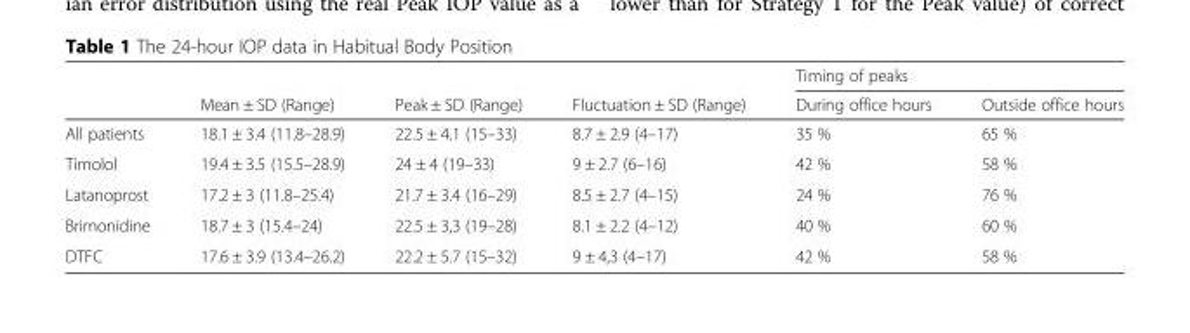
<table><thead><tr><td rowspan="2"></td><td rowspan="2">Mean ± SD (Range)</td><td rowspan="2">Peak ± SD (Range)</td><td rowspan="2">Fluctuation ± SD (Range)</td><td colspan="2">Timing of peaks</td></tr><tr><td>During office hours</td><td>Outside office hours</td></tr></thead><tbody><tr><td>All patients</td><td>18.1 ± 3.4 (11.8–28.9)</td><td>22.5 ± 4.1 (15–33)</td><td>8.7 ± 2.9 (4–17)</td><td>35 %</td><td>65 %</td></tr><tr><td>Timolol</td><td>19.4 ± 3.5 (15.5–28.9)</td><td>24 ± 4 (19–33)</td><td>9 ± 2.7 (6–16)</td><td>42 %</td><td>58 %</td></tr><tr><td>Latanoprost</td><td>17.2 ± 3 (11.8–25.4)</td><td>21.7 ± 3.4 (16–29)</td><td>8.5 ± 2.7 (4–15)</td><td>24 %</td><td>76 %</td></tr><tr><td>Brimonidine</td><td>18.7 ± 3 (15.4–24)</td><td>22.5 ± 3,3 (19–28)</td><td>8.1 ± 2.2 (4–12)</td><td>40 %</td><td>60 %</td></tr><tr><td>DTFC</td><td>17.6 ± 3.9 (13.4–26.2)</td><td>22.2 ± 5.7 (15–32)</td><td>9 ± 4,3 (4–17)</td><td>42 %</td><td>58 %</td></tr></tbody></table>